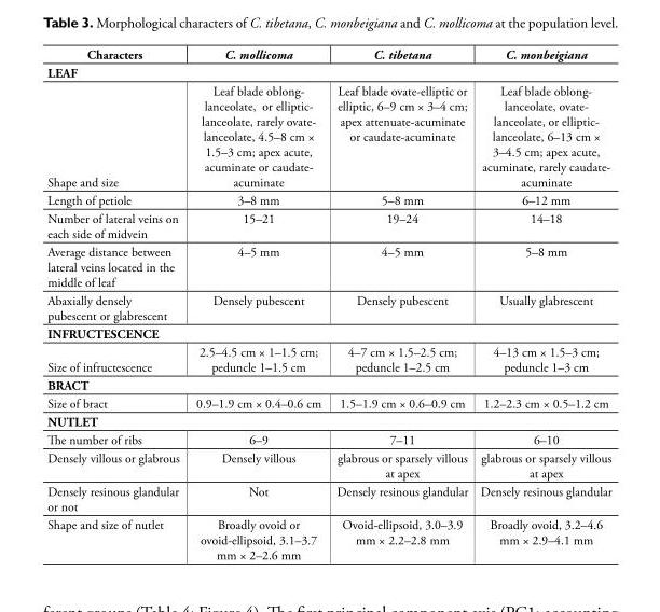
<table><tbody><tr><td>Characters</td><td>C. mollicoma</td><td>C. tibetana</td><td>C. monbeigiana</td></tr><tr><td colspan="4">LEAF</td></tr><tr><td>Shape and size</td><td>Leaf blade oblong- lanceolate, or elliptic- lanceolate, rarely ovate- lanceolate, 4.5–8 cm × 1.5–3 cm; apex acute, acuminate or caudate- acuminate</td><td>Leaf blade ovate-elliptic or elliptic, 6–9 cm × 3–4 cm; apex attenuate-acuminate or caudate-acuminate</td><td>Leaf blade oblong- lanceolate, ovate- lanceolate, or elliptic- lanceolate, 6–13 cm × 3–4.5 cm; apex acute, acuminate, rarely caudate- acuminate</td></tr><tr><td>Length of petiole</td><td>3–8 mm</td><td>5–8 mm</td><td>6–12 mm</td></tr><tr><td>Number of lateral veins on each side of midvein</td><td>15–21</td><td>19–24</td><td>14–18</td></tr><tr><td>Average distance between lateral veins located in the middle of leaf</td><td>4–5 mm</td><td>4–5 mm</td><td>5–8 mm</td></tr><tr><td>Abaxially densely pubescent or glabrescent</td><td>Densely pubescent</td><td>Densely pubescent</td><td>Usually glabrescent</td></tr><tr><td colspan="4">INFRUCTESCENCE</td></tr><tr><td>Size of infructescence</td><td>2.5–4.5 cm × 1–1.5 cm; peduncle 1–1.5 cm</td><td>4–7 cm × 1.5–2.5 cm; peduncle 1–2.5 cm</td><td>4–13 cm × 1.5–3 cm; peduncle 1–3 cm</td></tr><tr><td colspan="4">BRACT</td></tr><tr><td>Size of bract</td><td>0.9–1.9 cm × 0.4–0.6 cm</td><td>1.5–1.9 cm × 0.6–0.9 cm</td><td>1.2–2.3 cm × 0.5–1.2 cm</td></tr><tr><td colspan="4">NUTLET</td></tr><tr><td>The number of ribs</td><td>6–9</td><td>7–11</td><td>6–10</td></tr><tr><td>Densely villous or glabrous</td><td>Densely villous</td><td>glabrous or sparsely villous at apex</td><td>glabrous or sparsely villous at apex</td></tr><tr><td>Densely resinous glandular or not</td><td>Not</td><td>Densely resinous glandular</td><td>Densely resinous glandular</td></tr><tr><td>Shape and size of nutlet</td><td>Broadly ovoid or ovoid-ellipsoid, 3.1–3.7 mm × 2–2.6 mm</td><td>Ovoid-ellipsoid, 3.0–3.9 mm × 2.2–2.8 mm</td><td>Broadly ovoid, 3.2–4.6 mm × 2.9–4.1 mm</td></tr></tbody></table>